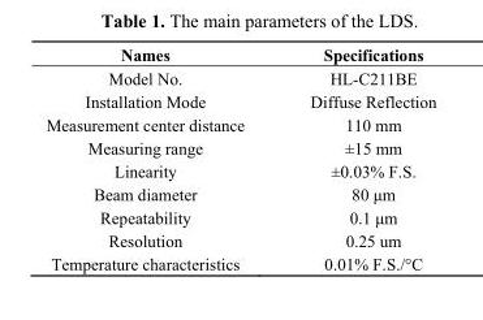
<table><thead><tr><td>Names</td><td>Specifications</td></tr></thead><tbody><tr><td>Model No.</td><td>HL-C211BE</td></tr><tr><td>Installation Mode</td><td>Diffuse Reflection</td></tr><tr><td>Measurement center distance</td><td>110 mm</td></tr><tr><td>Measuring range</td><td>±15 mm</td></tr><tr><td>Linearity</td><td>±0.03% F.S.</td></tr><tr><td>Beam diameter</td><td>80 μm</td></tr><tr><td>Repeatability</td><td>0.1 μm</td></tr><tr><td>Resolution</td><td>0.25 um</td></tr><tr><td>Temperature characteristics</td><td>0.01% F.S./°C</td></tr></tbody></table>